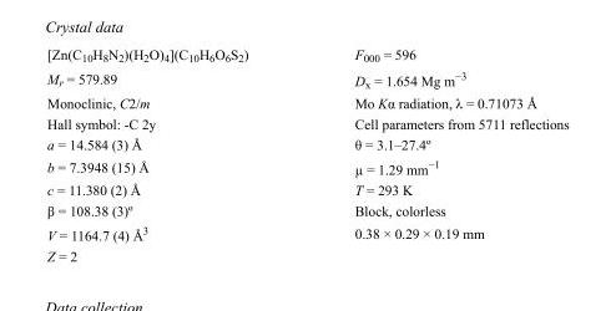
<table><tbody><tr><td>[Zn(C<sub>10</sub>H<sub>8</sub>N<sub>2</sub>)(H<sub>2</sub>O)<sub>4</sub>](C<sub>10</sub>H<sub>6</sub>O<sub>6</sub>S<sub>2</sub>)</td><td>F000 = 596</td></tr><tr><td>M<sub>r</sub> = 579.89</td><td>D<sub>x</sub> = 1.654 Mg m<sup>−3</sup></td></tr><tr><td>Monoclinic, C2/m</td><td>Mo Kα radiation, λ = 0.71073 Å</td></tr><tr><td>Hall symbol: -C 2y</td><td>Cell parameters from 5711 reflections</td></tr><tr><td>a = 14.584 (3) Å</td><td>θ = 3.1–27.4º</td></tr><tr><td>b = 7.3948 (15) Å</td><td>µ = 1.29 mm<sup>−1</sup></td></tr><tr><td>c = 11.380 (2) Å</td><td>T = 293 K</td></tr><tr><td>β = 108.38 (3)º</td><td>Block, colorless</td></tr><tr><td>V = 1164.7 (4) Å<sup>3</sup></td><td>0.38 × 0.29 × 0.19 mm</td></tr><tr><td>Z = 2</td><td></td></tr></tbody></table>